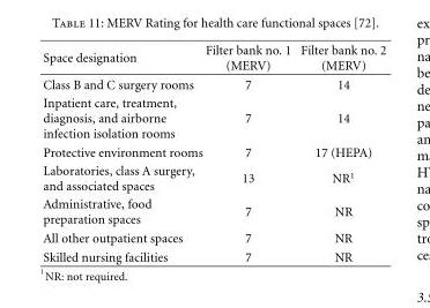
<table><thead><tr><td>Space designation</td><td>Filter bank no. 1 (MERV)</td><td>Filter bank no. 2 (MERV)</td></tr></thead><tbody><tr><td>Class B and C surgery rooms</td><td>7</td><td>14</td></tr><tr><td>Inpatient care, treatment, diagnosis, and airborne infection isolation rooms</td><td>7</td><td>14</td></tr><tr><td>Protective environment rooms</td><td>7</td><td>17 (HEPA)</td></tr><tr><td>Laboratories, class A surgery, and associated spaces</td><td>13</td><td>NR<sup>1</sup></td></tr><tr><td>Administrative, food preparation spaces</td><td>7</td><td>NR</td></tr><tr><td>All other outpatient spaces</td><td>7</td><td>NR</td></tr><tr><td>Skilled nursing facilities</td><td>7</td><td>NR</td></tr></tbody></table>